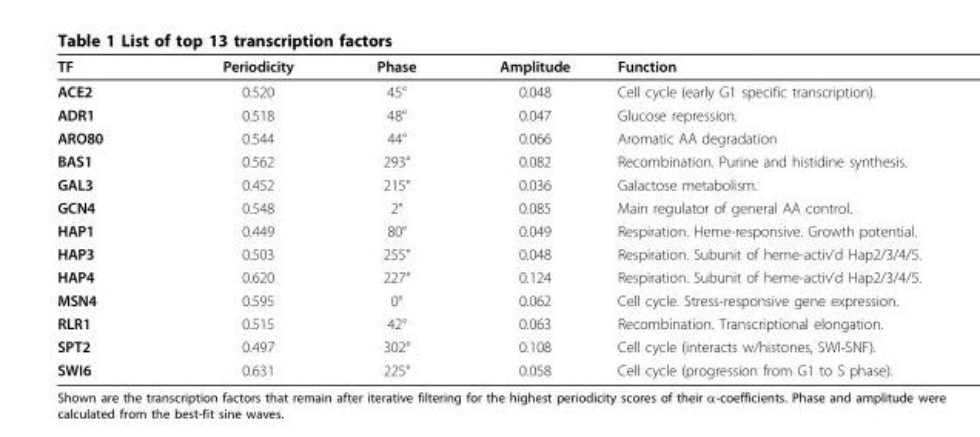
<table><thead><tr><td>TF</td><td>Periodicity</td><td>Phase</td><td>Amplitude</td><td>Function</td></tr></thead><tbody><tr><td>ACE2</td><td>0.520</td><td>45°</td><td>0.048</td><td>Cell cycle (early G1 specific transcription).</td></tr><tr><td>ADR1</td><td>0.518</td><td>48°</td><td>0.047</td><td>Glucose repression.</td></tr><tr><td>ARO80</td><td>0.544</td><td>44°</td><td>0.066</td><td>Aromatic AA degradation</td></tr><tr><td>BAS1</td><td>0.562</td><td>293°</td><td>0.082</td><td>Recombination. Purine and histidine synthesis.</td></tr><tr><td>GAL3</td><td>0.452</td><td>215°</td><td>0.036</td><td>Galactose metabolism.</td></tr><tr><td>GCN4</td><td>0.548</td><td>2°</td><td>0.085</td><td>Main regulator of general AA control.</td></tr><tr><td>HAP1</td><td>0.449</td><td>80°</td><td>0.049</td><td>Respiration. Heme-responsive. Growth potential.</td></tr><tr><td>HAP3</td><td>0.503</td><td>255°</td><td>0.048</td><td>Respiration. Subunit of heme-activ’d Hap2/3/4/5.</td></tr><tr><td>HAP4</td><td>0.620</td><td>227°</td><td>0.124</td><td>Respiration. Subunit of heme-activ’d Hap2/3/4/5.</td></tr><tr><td>MSN4</td><td>0.595</td><td>0°</td><td>0.062</td><td>Cell cycle. Stress-responsive gene expression.</td></tr><tr><td>RLR1</td><td>0.515</td><td>42°</td><td>0.063</td><td>Recombination. Transcriptional elongation.</td></tr><tr><td>SPT2</td><td>0.497</td><td>302°</td><td>0.108</td><td>Cell cycle (interacts w/histones, SWI-SNF).</td></tr><tr><td>SWI6</td><td>0.631</td><td>225°</td><td>0.058</td><td>Cell cycle (progression from G1 to S phase).</td></tr></tbody></table>